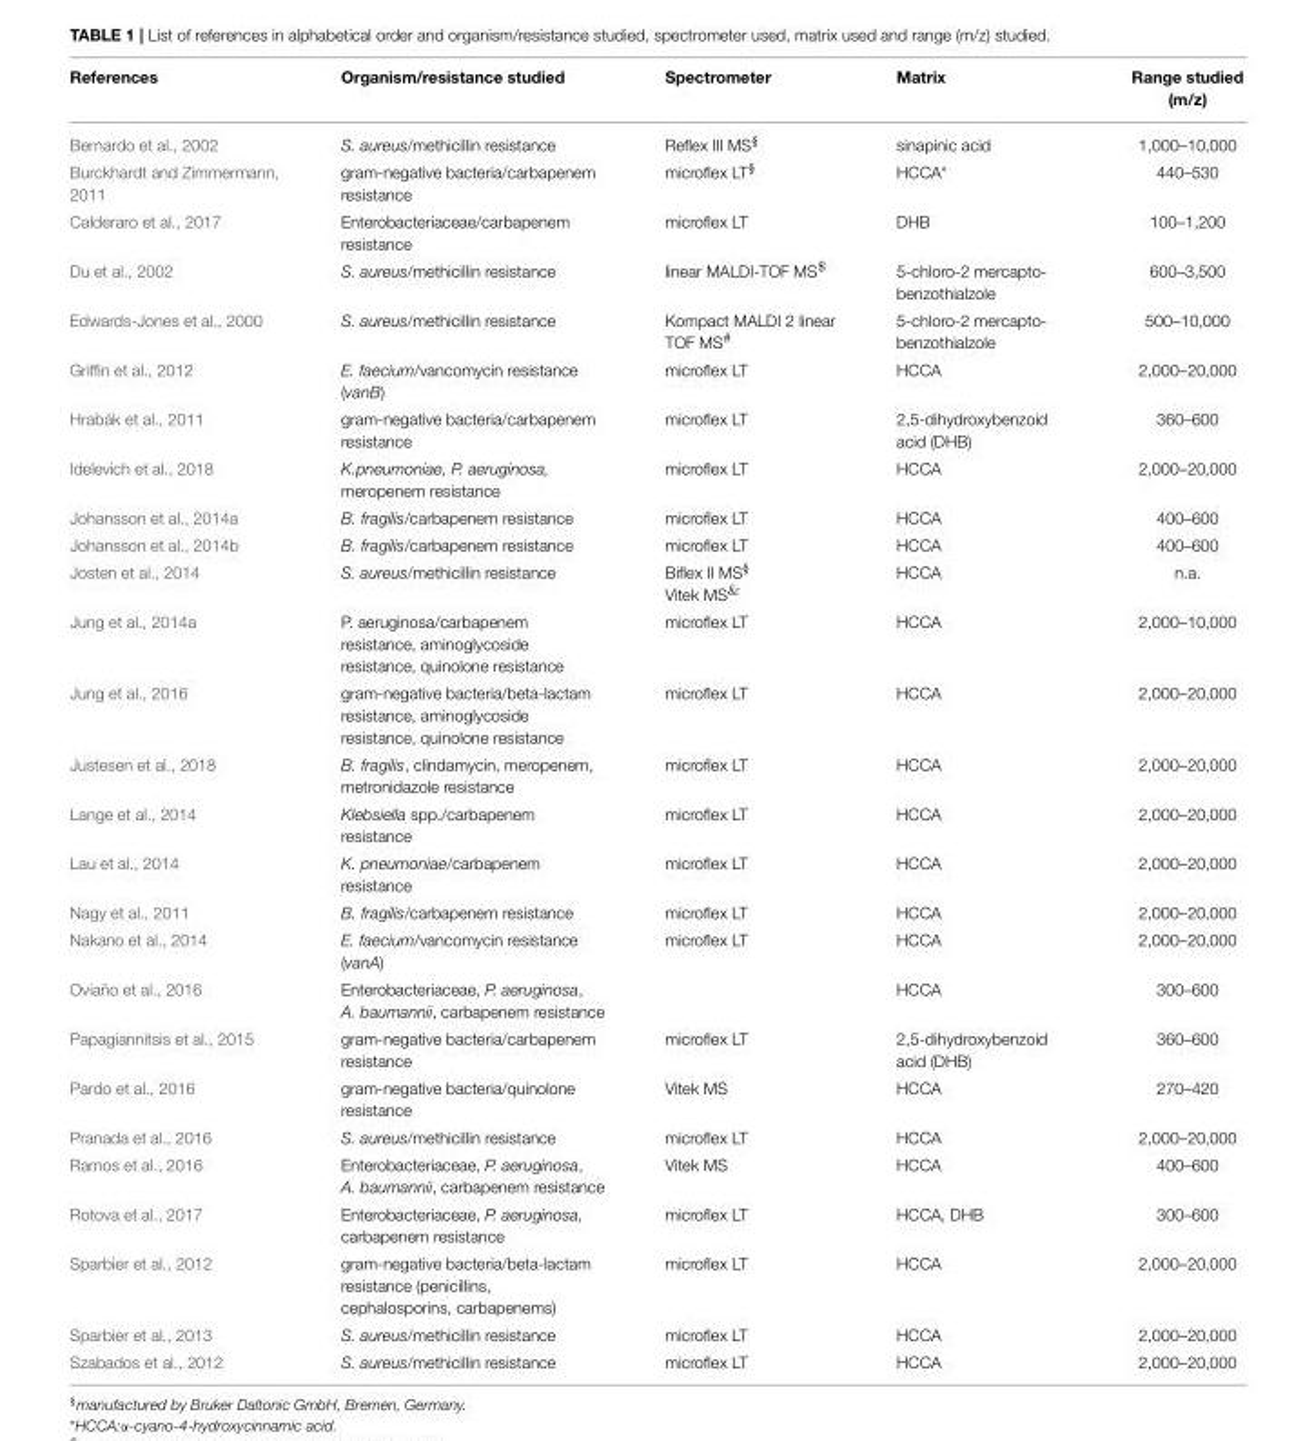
<table><thead><tr><td>References</td><td>Organism/resistance studied</td><td>Spectrometer</td><td>Matrix</td><td>Range studied (m/z)</td></tr></thead><tbody><tr><td>Bernardo et al., 2002</td><td>S. aureus/methicillin resistance</td><td>Reflex III MS<sup>§</sup></td><td>sinapinic acid</td><td>1,000–10,000</td></tr><tr><td>Burckhardt and Zimmermann, 2011</td><td>gram-negative bacteria/carbapenem resistance</td><td>microflex LT<sup>§</sup></td><td>HCCA*</td><td>440–530</td></tr><tr><td>Calderaro et al., 2017</td><td>Enterobacteriaceae/carbapenem resistance</td><td>microflex LT</td><td>DHB</td><td>100–1,200</td></tr><tr><td>Du et al., 2002</td><td>S. aureus/methicillin resistance</td><td>linear MALDI-TOF MS<sup>$</sup></td><td>5-chloro-2 mercapto- benzothialzole</td><td>600–3,500</td></tr><tr><td>Edwards-Jones et al., 2000</td><td>S. aureus/methicillin resistance</td><td>Kompact MALDI 2 linear TOF MS<sup>#</sup></td><td>5-chloro-2 mercapto- benzothialzole</td><td>500–10,000</td></tr><tr><td>Griffin et al., 2012</td><td>E. faecium/vancomycin resistance (vanB)</td><td>microflex LT</td><td>HCCA</td><td>2,000–20,000</td></tr><tr><td>Hrabák et al., 2011</td><td>gram-negative bacteria/carbapenem resistance</td><td>microflex LT</td><td>2,5-dihydroxybenzoid acid (DHB)</td><td>360–600</td></tr><tr><td>Idelevich et al., 2018</td><td>K.pneumoniae, P. aeruginosa, meropenem resistance</td><td>microflex LT</td><td>HCCA</td><td>2,000–20,000</td></tr><tr><td>Johansson et al., 2014a</td><td>B. fragilis/carbapenem resistance</td><td>microflex LT</td><td>HCCA</td><td>400–600</td></tr><tr><td>Johansson et al., 2014b</td><td>B. fragilis/carbapenem resistance</td><td>microflex LT</td><td>HCCA</td><td>400–600</td></tr><tr><td>Josten et al., 2014</td><td>S. aureus/methicillin resistance</td><td>Biflex II MS<sup>§</sup> Vitek MS<sup>&amp;</sup></td><td>HCCA</td><td>n.a.</td></tr><tr><td>Jung et al., 2014a</td><td>P. aeruginosa/carbapenem resistance, aminoglycoside resistance, quinolone resistance</td><td>microflex LT</td><td>HCCA</td><td>2,000–10,000</td></tr><tr><td>Jung et al., 2016</td><td>gram-negative bacteria/beta-lactam resistance, aminoglycoside resistance, quinolone resistance</td><td>microflex LT</td><td>HCCA</td><td>2,000–20,000</td></tr><tr><td>Justesen et al., 2018</td><td>B. fragilis, clindamycin, meropenem, metronidazole resistance</td><td>microflex LT</td><td>HCCA</td><td>2,000–20,000</td></tr><tr><td>Lange et al., 2014</td><td>Klebsiella spp./carbapenem resistance</td><td>microflex LT</td><td>HCCA</td><td>2,000–20,000</td></tr><tr><td>Lau et al., 2014</td><td>K. pneumoniae/carbapenem resistance</td><td>microflex LT</td><td>HCCA</td><td>2,000–20,000</td></tr><tr><td>Nagy et al., 2011</td><td>B. fragilis/carbapenem resistance</td><td>microflex LT</td><td>HCCA</td><td>2,000–20,000</td></tr><tr><td>Nakano et al., 2014</td><td>E. faecium/vancomycin resistance (vanA)</td><td>microflex LT</td><td>HCCA</td><td>2,000–20,000</td></tr><tr><td>Oviaño et al., 2016</td><td>Enterobacteriaceae, P. aeruginosa, A. baumannii, carbapenem resistance</td><td></td><td>HCCA</td><td>300–600</td></tr><tr><td>Papagiannitsis et al., 2015</td><td>gram-negative bacteria/carbapenem resistance</td><td>microflex LT</td><td>2,5-dihydroxybenzoid acid (DHB)</td><td>360–600</td></tr><tr><td>Pardo et al., 2016</td><td>gram-negative bacteria/quinolone resistance</td><td>Vitek MS</td><td>HCCA</td><td>270–420</td></tr><tr><td>Pranada et al., 2016</td><td>S. aureus/methicillin resistance</td><td>microflex LT</td><td>HCCA</td><td>2,000–20,000</td></tr><tr><td>Ramos et al., 2016</td><td>Enterobacteriaceae, P. aeruginosa, A. baumannii, carbapenem resistance</td><td>Vitek MS</td><td>HCCA</td><td>400–600</td></tr><tr><td>Rotova et al., 2017</td><td>Enterobacteriaceae, P. aeruginosa, carbapenem resistance</td><td>microflex LT</td><td>HCCA, DHB</td><td>300–600</td></tr><tr><td>Sparbier et al., 2012</td><td>gram-negative bacteria/beta-lactam resistance (penicillins, cephalosporins, carbapenems)</td><td>microflex LT</td><td>HCCA</td><td>2,000–20,000</td></tr><tr><td>Sparbier et al., 2013</td><td>S. aureus/methicillin resistance</td><td>microflex LT</td><td>HCCA</td><td>2,000–20,000</td></tr><tr><td>Szabados et al., 2012</td><td>S. aureus/methicillin resistance</td><td>microflex LT</td><td>HCCA</td><td>2,000–20,000</td></tr></tbody></table>